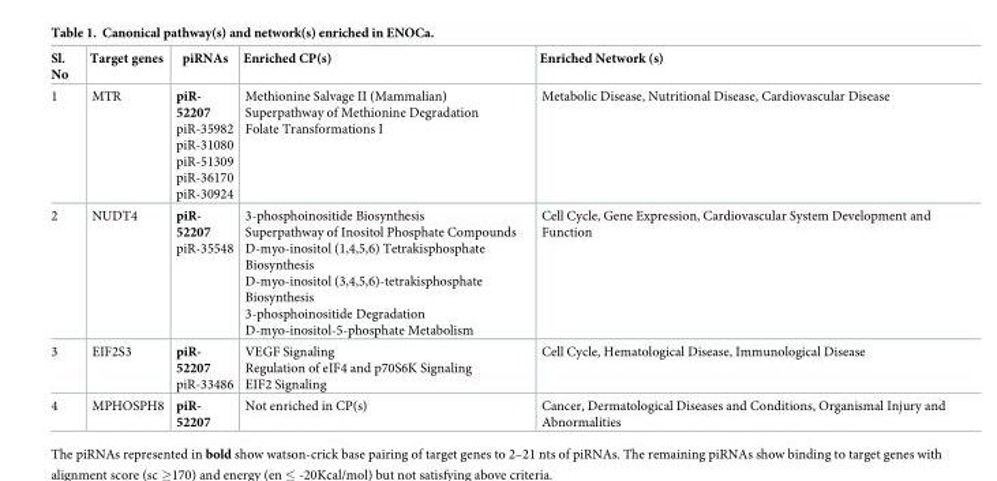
<table><thead><tr><td>Sl. No</td><td>Target genes</td><td>piRNAs</td><td>Enriched CP(s)</td><td>Enriched Network (s)</td></tr></thead><tbody><tr><td>1</td><td>MTR</td><td>piR- 52207 piR-35982 piR-31080 piR-51309 piR-36170 piR-30924</td><td>Methionine Salvage II (Mammalian) Superpathway of Methionine Degradation Folate Transformations I</td><td>Metabolic Disease, Nutritional Disease, Cardiovascular Disease</td></tr><tr><td>2</td><td>NUDT4</td><td>piR- 52207 piR-35548</td><td>3-phosphoinositide Biosynthesis Superpathway of Inositol Phosphate Compounds D-myo-inositol (1,4,5,6) Tetrakisphosphate Biosynthesis D-myo-inositol (3,4,5,6)-tetrakisphosphate Biosynthesis 3-phosphoinositide Degradation D-myo-inositol-5-phosphate Metabolism</td><td>Cell Cycle, Gene Expression, Cardiovascular System Development and Function</td></tr><tr><td>3</td><td>EIF2S3</td><td>piR- 52207 piR-33486</td><td>VEGF Signaling Regulation of eIF4 and p70S6K Signaling EIF2 Signaling</td><td>Cell Cycle, Hematological Disease, Immunological Disease</td></tr><tr><td>4</td><td>MPHOSPH8</td><td>piR- 52207</td><td>Not enriched in CP(s)</td><td>Cancer, Dermatological Diseases and Conditions, Organismal Injury and Abnormalities</td></tr></tbody></table>